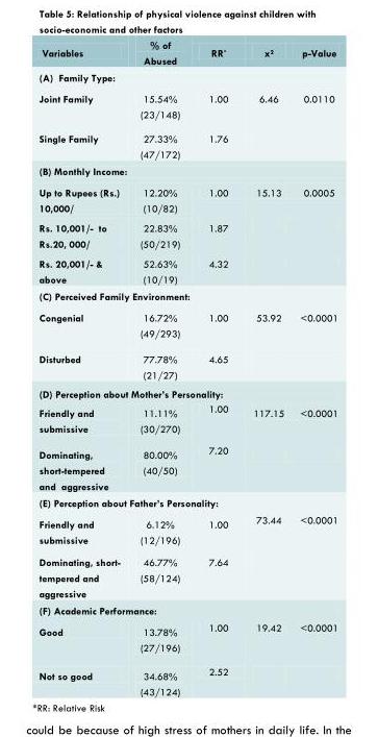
<table><thead><tr><td>Variables</td><td>% of Abused</td><td>RRP*</td><td>xP2</td><td>p-Value</td></tr></thead><tbody><tr><td colspan="5">(A) Family Type:</td></tr><tr><td>Joint Family</td><td>15.54% (23/148)</td><td>1.00</td><td>6.46</td><td>0.0110</td></tr><tr><td>Single Family</td><td>27.33% (47/172)</td><td>1.76</td><td></td><td></td></tr><tr><td colspan="5">(B) Monthly Income:</td></tr><tr><td>Up to Rupees (Rs.) 10,000/</td><td>12.20% (10/82)</td><td>1.00</td><td>15.13</td><td>0.0005</td></tr><tr><td>Rs. 10,001/- to Rs.20, 000/</td><td>22.83% (50/219)</td><td>1.87</td><td></td><td></td></tr><tr><td>Rs. 20,001/- &amp; above</td><td>52.63% (10/19)</td><td>4.32</td><td></td><td></td></tr><tr><td colspan="5">(C) Perceived Family Environment:</td></tr><tr><td>Congenial</td><td>16.72% (49/293)</td><td>1.00</td><td>53.92</td><td>&lt;0.0001</td></tr><tr><td>Disturbed</td><td>77.78% (21/27)</td><td>4.65</td><td></td><td></td></tr><tr><td colspan="5">(D) Perception about Mother’s Personality:</td></tr><tr><td>Friendly and submissive</td><td>11.11% (30/270)</td><td>1.00</td><td>117.15</td><td>&lt;0.0001</td></tr><tr><td>Dominating, short-tempered and aggressive</td><td>80.00% (40/50)</td><td>7.20</td><td></td><td></td></tr><tr><td colspan="5">(E) Perception about Father’s Personality:</td></tr><tr><td>Friendly and submissive</td><td>6.12% (12/196)</td><td>1.00</td><td>73.44</td><td>&lt;0.0001</td></tr><tr><td>Dominating, short- tempered and aggressive</td><td>46.77% (58/124)</td><td>7.64</td><td></td><td></td></tr><tr><td colspan="5">(F) Academic Performance:</td></tr><tr><td>Good</td><td>13.78% (27/196)</td><td>1.00</td><td>19.42</td><td>&lt;0.0001</td></tr><tr><td>Not so good</td><td>34.68% (43/124)</td><td>2.52</td><td></td><td></td></tr></tbody></table>